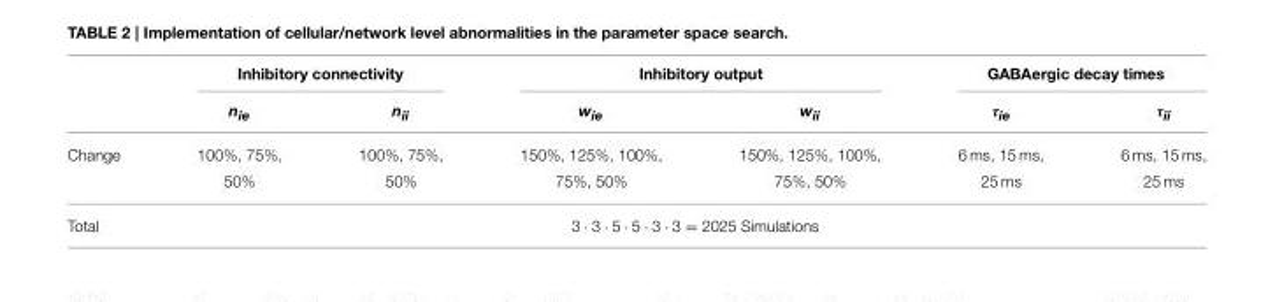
<table><thead><tr><td rowspan="2"></td><td colspan="2">Inhibitory connectivity</td><td colspan="2">Inhibitory output</td><td colspan="2">GABAergic decay times</td></tr><tr><td>n<sub>ie</sub></td><td>n<sub>ii</sub></td><td>w<sub>ie</sub></td><td>w<sub>ii</sub></td><td>τ<sub>ie</sub></td><td>τ<sub>ii</sub></td></tr></thead><tbody><tr><td rowspan="2">Change</td><td>100%, 75%,</td><td>100%, 75%,</td><td>150%, 125%, 100%,</td><td>150%, 125%, 100%,</td><td>6 ms, 15 ms,</td><td>6 ms, 15 ms,</td></tr><tr><td>50%</td><td>50%</td><td>75%, 50%</td><td>75%, 50%</td><td>25 ms</td><td>25 ms</td></tr><tr><td>Total</td><td colspan="6">3 · 3 · 5 · 5 · 3 · 3 = 2025 Simulations</td></tr></tbody></table>